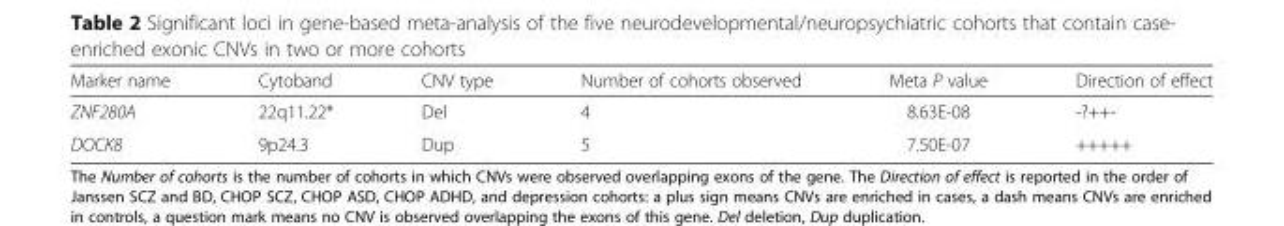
<table><thead><tr><td>Marker name</td><td>Cytoband</td><td>CNV type</td><td>Number of cohorts observed</td><td>Meta P value</td><td>Direction of effect</td></tr></thead><tbody><tr><td>ZNF280A</td><td>22q11.22*</td><td>Del</td><td>4</td><td>8.63E-08</td><td>-?++-</td></tr><tr><td>DOCK8</td><td>9p24.3</td><td>Dup</td><td>5</td><td>7.50E-07</td><td>+++++</td></tr></tbody></table>